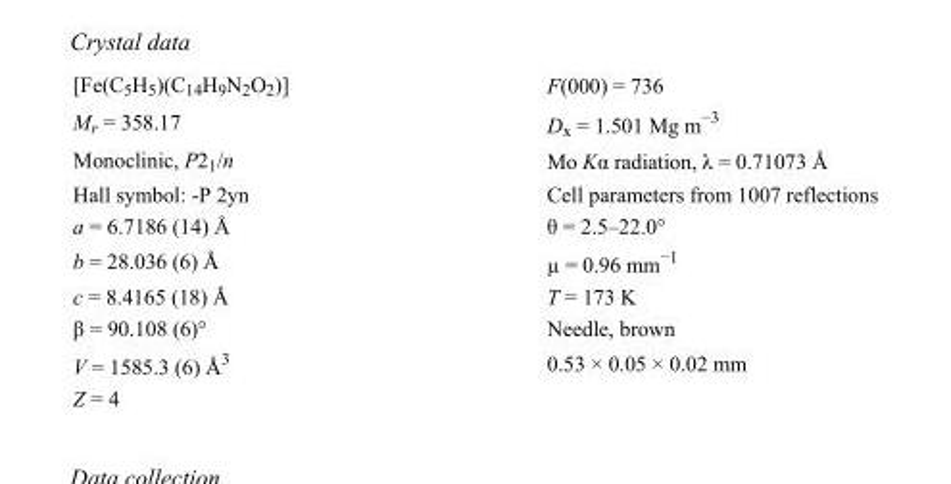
<table><tbody><tr><td>[Fe(C<sub>5</sub>H<sub>5</sub>)(C<sub>14</sub>H<sub>9</sub>N<sub>2</sub>O<sub>2</sub>)]</td><td>F(000) = 736</td></tr><tr><td>M<sub>r</sub> = 358.17</td><td>D<sub>x</sub> = 1.501 Mg m<sup>−3</sup></td></tr><tr><td>Monoclinic, P2<sub>1</sub>/n</td><td>Mo Kα radiation, λ = 0.71073 Å</td></tr><tr><td>Hall symbol: -P 2yn</td><td>Cell parameters from 1007 reflections</td></tr><tr><td>a = 6.7186 (14) Å</td><td>θ = 2.5–22.0°</td></tr><tr><td>b = 28.036 (6) Å</td><td>µ = 0.96 mm<sup>−1</sup></td></tr><tr><td>c = 8.4165 (18) Å</td><td>T = 173 K</td></tr><tr><td>β = 90.108 (6)°</td><td>Needle, brown</td></tr><tr><td>V = 1585.3 (6) Å<sup>3</sup></td><td>0.53 × 0.05 × 0.02 mm</td></tr><tr><td>Z = 4</td><td></td></tr></tbody></table>